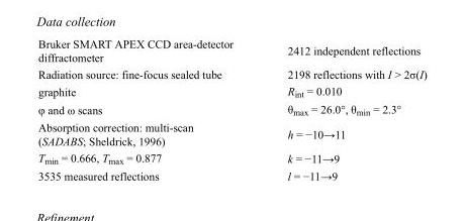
<table><tbody><tr><td>Bruker SMART APEX CCD area-detector diffractometer</td><td>2412 independent reflections</td></tr><tr><td>Radiation source: fine-focus sealed tube</td><td>2198 reflections with I &gt; 2σ(I)</td></tr><tr><td>graphite</td><td>R<sub>int</sub> = 0.010</td></tr><tr><td>φ and ω scans</td><td>θ<sub>max</sub> = 26.0°, θ<sub>min</sub> = 2.3°</td></tr><tr><td>Absorption correction: multi-scan (SADABS; Sheldrick, 1996)</td><td>h = −10→11</td></tr><tr><td>T<sub>min</sub> = 0.666, T<sub>max</sub> = 0.877</td><td>k = −11→9</td></tr><tr><td>3535 measured reflections</td><td>l = −11→9</td></tr></tbody></table>